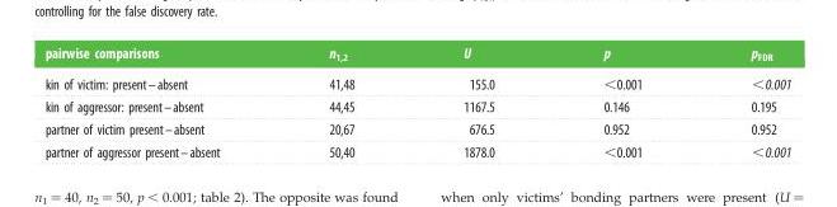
<table><thead><tr><td>pairwise comparisons</td><td>n<sub>1,2</sub></td><td>U</td><td>p</td><td>p<sub>FDR</sub></td></tr></thead><tbody><tr><td>kin of victim: present–absent</td><td>41,48</td><td>155.0</td><td>&lt;0.001</td><td>&lt;0.001</td></tr><tr><td>kin of aggressor: present–absent</td><td>44,45</td><td>1167.5</td><td>0.146</td><td>0.195</td></tr><tr><td>partner of victim present–absent</td><td>20,67</td><td>676.5</td><td>0.952</td><td>0.952</td></tr><tr><td>partner of aggressor present–absent</td><td>50,40</td><td>1878.0</td><td>&lt;0.001</td><td>&lt;0.001</td></tr></tbody></table>